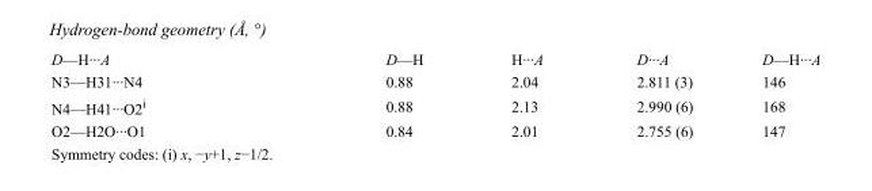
<table><tbody><tr><td>D—H···A</td><td>D—H</td><td>H···A</td><td>D···A</td><td>D—H···A</td></tr><tr><td>N3—H31···N4</td><td>0.88</td><td>2.04</td><td>2.811 (3)</td><td>146</td></tr><tr><td>N4—H41···O2<sup>i</sup></td><td>0.88</td><td>2.13</td><td>2.990 (6)</td><td>168</td></tr><tr><td>O2—H2O···O1</td><td>0.84</td><td>2.01</td><td>2.755 (6)</td><td>147</td></tr></tbody></table>